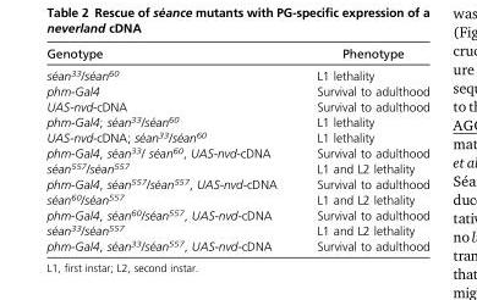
<table><thead><tr><td>Genotype</td><td>Phenotype</td></tr></thead><tbody><tr><td>séan<sup>33</sup>/séan<sup>60</sup></td><td>L1 lethality</td></tr><tr><td>phm-Gal4</td><td>Survival to adulthood</td></tr><tr><td>UAS-nvd-cDNA</td><td>Survival to adulthood</td></tr><tr><td>phm-Gal4; séan<sup>33</sup>/séan<sup>60</sup></td><td>L1 lethality</td></tr><tr><td>UAS-nvd-cDNA; séan<sup>33</sup>/séan<sup>60</sup></td><td>L1 lethality</td></tr><tr><td>phm-Gal4, séan<sup>33</sup>/ séan<sup>60</sup>, UAS-nvd-cDNA</td><td>Survival to adulthood</td></tr><tr><td>séan<sup>557</sup>/séan<sup>557</sup></td><td>L1 and L2 lethality</td></tr><tr><td>phm-Gal4, séan<sup>557</sup>/séan<sup>557</sup>, UAS-nvd-cDNA</td><td>Survival to adulthood</td></tr><tr><td>séan<sup>60</sup>/séan<sup>557</sup></td><td>L1 and L2 lethality</td></tr><tr><td>phm-Gal4, séan<sup>60</sup>/séan<sup>557</sup>, UAS-nvd-cDNA</td><td>Survival to adulthood</td></tr><tr><td>séan<sup>33</sup>/séan<sup>557</sup></td><td>L1 and L2 lethality</td></tr><tr><td>phm-Gal4, séan<sup>33</sup>/séan<sup>557</sup>, UAS-nvd-cDNA</td><td>Survival to adulthood</td></tr></tbody></table>